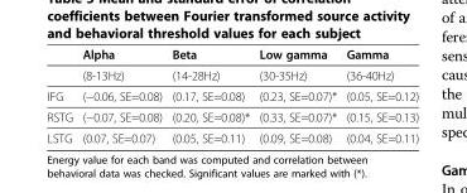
<table><thead><tr><td></td><td>Alpha</td><td>Beta</td><td>Low gamma</td><td>Gamma</td></tr></thead><tbody><tr><td></td><td>(8-13Hz)</td><td>(14-28Hz)</td><td>(30-35Hz)</td><td>(36-40Hz)</td></tr><tr><td>IFG</td><td>(−0.06, SE=0.08)</td><td>(0.17, SE=0.08)</td><td>(0.23, SE=0.07)*</td><td>(0.05, SE=0.12)</td></tr><tr><td>RSTG</td><td>(−0.07, SE=0.08)</td><td>(0.20, SE=0.08)*</td><td>(0.33, SE=0.07)*</td><td>(0.15, SE=0.13)</td></tr><tr><td>LSTG</td><td>(0.07, SE=0.07)</td><td>(0.05, SE=0.11)</td><td>(0.09, SE=0.08)</td><td>(0.04, SE=0.11)</td></tr></tbody></table>